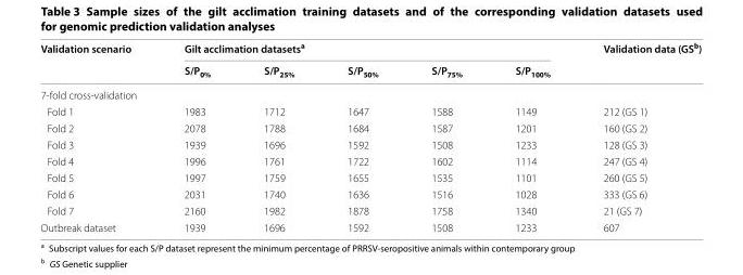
<table><thead><tr><td rowspan="2">Validation scenario</td><td colspan="5">Gilt acclimation datasets<sup>a</sup></td><td rowspan="2">Validation data (GS<sup>b</sup>)</td></tr><tr><td>S/P<sub>0%</sub></td><td>S/P<sub>25%</sub></td><td>S/P<sub>50%</sub></td><td>S/P<sub>75%</sub></td><td>S/P<sub>100%</sub></td></tr></thead><tbody><tr><td colspan="7">7-fold cross-validation</td></tr><tr><td>Fold 1</td><td>1983</td><td>1712</td><td>1647</td><td>1588</td><td>1149</td><td>212 (GS 1)</td></tr><tr><td>Fold 2</td><td>2078</td><td>1788</td><td>1684</td><td>1587</td><td>1201</td><td>160 (GS 2)</td></tr><tr><td>Fold 3</td><td>1939</td><td>1696</td><td>1592</td><td>1508</td><td>1233</td><td>128 (GS 3)</td></tr><tr><td>Fold 4</td><td>1996</td><td>1761</td><td>1722</td><td>1602</td><td>1114</td><td>247 (GS 4)</td></tr><tr><td>Fold 5</td><td>1997</td><td>1759</td><td>1655</td><td>1535</td><td>1101</td><td>260 (GS 5)</td></tr><tr><td>Fold 6</td><td>2031</td><td>1740</td><td>1636</td><td>1516</td><td>1028</td><td>333 (GS 6)</td></tr><tr><td>Fold 7</td><td>2160</td><td>1982</td><td>1878</td><td>1758</td><td>1340</td><td>21 (GS 7)</td></tr><tr><td>Outbreak dataset</td><td>1939</td><td>1696</td><td>1592</td><td>1508</td><td>1233</td><td>607</td></tr></tbody></table>